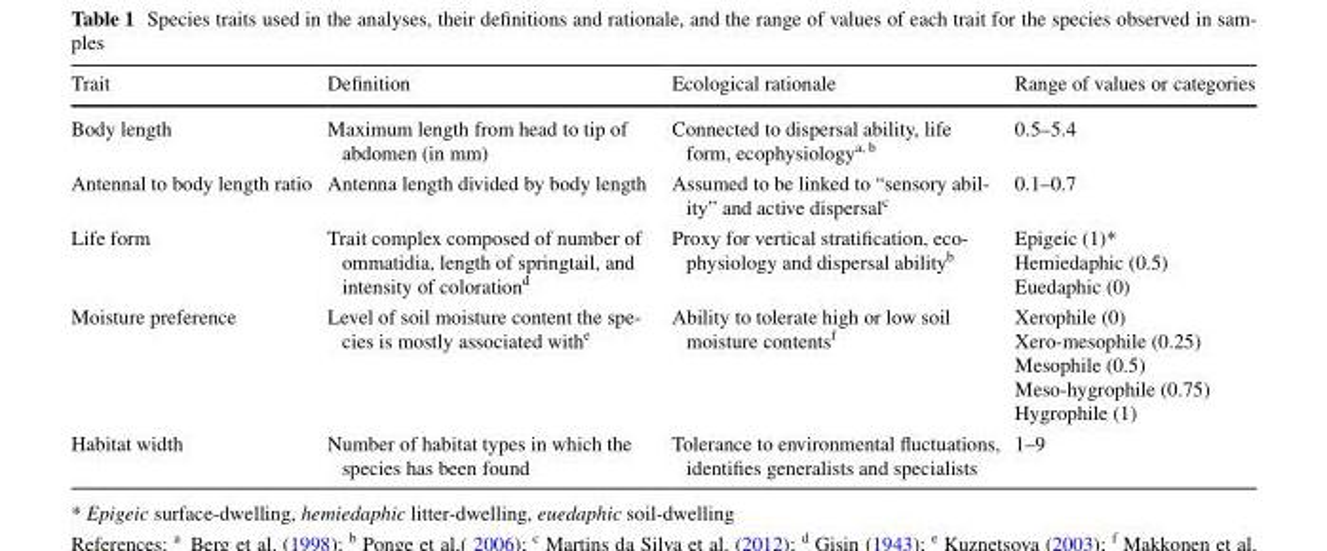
<table><thead><tr><td>Trait</td><td>Definition</td><td>Ecological rationale</td><td>Range of values or categories</td></tr></thead><tbody><tr><td>Body length</td><td>Maximum length from head to tip of abdomen (in mm)</td><td>Connected to dispersal ability, life form, ecophysiology<sup>a, b</sup></td><td>0.5–5.4</td></tr><tr><td>Antennal to body length ratio</td><td>Antenna length divided by body length</td><td>Assumed to be linked to “sensory abil- ity” and active dispersalc</td><td>0.1–0.7</td></tr><tr><td>Life form</td><td>Trait complex composed of number of ommatidia, length of springtail, and intensity of coloration<sup>d</sup></td><td>Proxy for vertical stratification, eco- physiology and dispersal abilityb</td><td>Epigeic (1)* Hemiedaphic (0.5) Euedaphic (0)</td></tr><tr><td>Moisture preference</td><td>Level of soil moisture content the spe- cies is mostly associated withe</td><td>Ability to tolerate high or low soil moisture contents<sup>f</sup></td><td>Xerophile (0) Xero-mesophile (0.25) Mesophile (0.5) Meso-hygrophile (0.75) Hygrophile (1)</td></tr><tr><td>Habitat width</td><td>Number of habitat types in which the species has been found</td><td>Tolerance to environmental fluctuations, identifies generalists and specialists</td><td>1–9</td></tr></tbody></table>